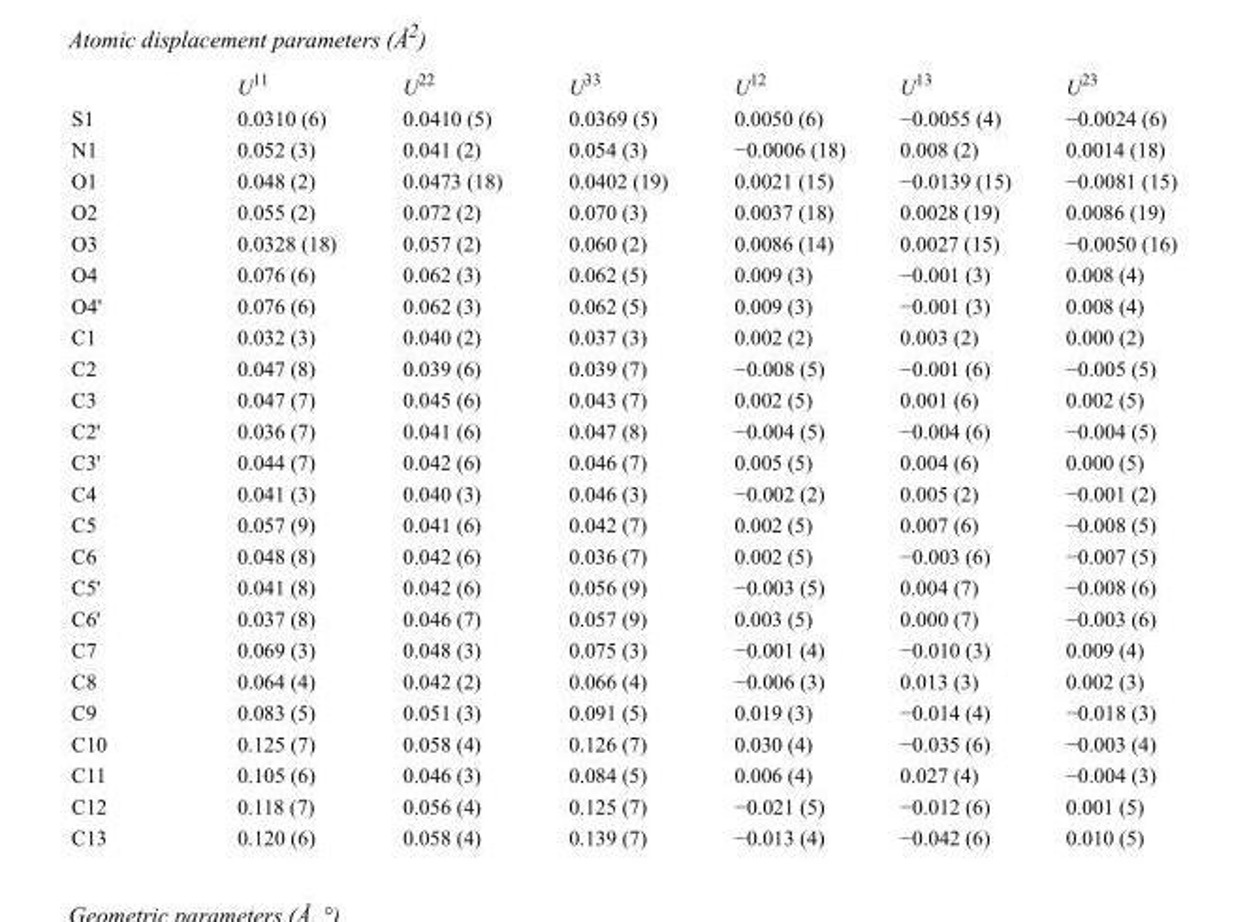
<table><thead><tr><td></td><td>U<sup>11</sup></td><td>U<sup>22</sup></td><td>U<sup>33</sup></td><td>U<sup>12</sup></td><td>U<sup>13</sup></td><td>U<sup>23</sup></td></tr></thead><tbody><tr><td>S1</td><td>0.0310 (6)</td><td>0.0410 (5)</td><td>0.0369 (5)</td><td>0.0050 (6)</td><td>−0.0055 (4)</td><td>−0.0024 (6)</td></tr><tr><td>N1</td><td>0.052 (3)</td><td>0.041 (2)</td><td>0.054 (3)</td><td>−0.0006 (18)</td><td>0.008 (2)</td><td>0.0014 (18)</td></tr><tr><td>O1</td><td>0.048 (2)</td><td>0.0473 (18)</td><td>0.0402 (19)</td><td>0.0021 (15)</td><td>−0.0139 (15)</td><td>−0.0081 (15)</td></tr><tr><td>O2</td><td>0.055 (2)</td><td>0.072 (2)</td><td>0.070 (3)</td><td>0.0037 (18)</td><td>0.0028 (19)</td><td>0.0086 (19)</td></tr><tr><td>O3</td><td>0.0328 (18)</td><td>0.057 (2)</td><td>0.060 (2)</td><td>0.0086 (14)</td><td>0.0027 (15)</td><td>−0.0050 (16)</td></tr><tr><td>O4</td><td>0.076 (6)</td><td>0.062 (3)</td><td>0.062 (5)</td><td>0.009 (3)</td><td>−0.001 (3)</td><td>0.008 (4)</td></tr><tr><td>O4&#x27;</td><td>0.076 (6)</td><td>0.062 (3)</td><td>0.062 (5)</td><td>0.009 (3)</td><td>−0.001 (3)</td><td>0.008 (4)</td></tr><tr><td>C1</td><td>0.032 (3)</td><td>0.040 (2)</td><td>0.037 (3)</td><td>0.002 (2)</td><td>0.003 (2)</td><td>0.000 (2)</td></tr><tr><td>C2</td><td>0.047 (8)</td><td>0.039 (6)</td><td>0.039 (7)</td><td>−0.008 (5)</td><td>−0.001 (6)</td><td>−0.005 (5)</td></tr><tr><td>C3</td><td>0.047 (7)</td><td>0.045 (6)</td><td>0.043 (7)</td><td>0.002 (5)</td><td>0.001 (6)</td><td>0.002 (5)</td></tr><tr><td>C2&#x27;</td><td>0.036 (7)</td><td>0.041 (6)</td><td>0.047 (8)</td><td>−0.004 (5)</td><td>−0.004 (6)</td><td>−0.004 (5)</td></tr><tr><td>C3&#x27;</td><td>0.044 (7)</td><td>0.042 (6)</td><td>0.046 (7)</td><td>0.005 (5)</td><td>0.004 (6)</td><td>0.000 (5)</td></tr><tr><td>C4</td><td>0.041 (3)</td><td>0.040 (3)</td><td>0.046 (3)</td><td>−0.002 (2)</td><td>0.005 (2)</td><td>−0.001 (2)</td></tr><tr><td>C5</td><td>0.057 (9)</td><td>0.041 (6)</td><td>0.042 (7)</td><td>0.002 (5)</td><td>0.007 (6)</td><td>−0.008 (5)</td></tr><tr><td>C6</td><td>0.048 (8)</td><td>0.042 (6)</td><td>0.036 (7)</td><td>0.002 (5)</td><td>−0.003 (6)</td><td>−0.007 (5)</td></tr><tr><td>C5&#x27;</td><td>0.041 (8)</td><td>0.042 (6)</td><td>0.056 (9)</td><td>−0.003 (5)</td><td>0.004 (7)</td><td>−0.008 (6)</td></tr><tr><td>C6&#x27;</td><td>0.037 (8)</td><td>0.046 (7)</td><td>0.057 (9)</td><td>0.003 (5)</td><td>0.000 (7)</td><td>−0.003 (6)</td></tr><tr><td>C7</td><td>0.069 (3)</td><td>0.048 (3)</td><td>0.075 (3)</td><td>−0.001 (4)</td><td>−0.010 (3)</td><td>0.009 (4)</td></tr><tr><td>C8</td><td>0.064 (4)</td><td>0.042 (2)</td><td>0.066 (4)</td><td>−0.006 (3)</td><td>0.013 (3)</td><td>0.002 (3)</td></tr><tr><td>C9</td><td>0.083 (5)</td><td>0.051 (3)</td><td>0.091 (5)</td><td>0.019 (3)</td><td>−0.014 (4)</td><td>−0.018 (3)</td></tr><tr><td>C10</td><td>0.125 (7)</td><td>0.058 (4)</td><td>0.126 (7)</td><td>0.030 (4)</td><td>−0.035 (6)</td><td>−0.003 (4)</td></tr><tr><td>C11</td><td>0.105 (6)</td><td>0.046 (3)</td><td>0.084 (5)</td><td>0.006 (4)</td><td>0.027 (4)</td><td>−0.004 (3)</td></tr><tr><td>C12</td><td>0.118 (7)</td><td>0.056 (4)</td><td>0.125 (7)</td><td>−0.021 (5)</td><td>−0.012 (6)</td><td>0.001 (5)</td></tr><tr><td>C13</td><td>0.120 (6)</td><td>0.058 (4)</td><td>0.139 (7)</td><td>−0.013 (4)</td><td>−0.042 (6)</td><td>0.010 (5)</td></tr></tbody></table>